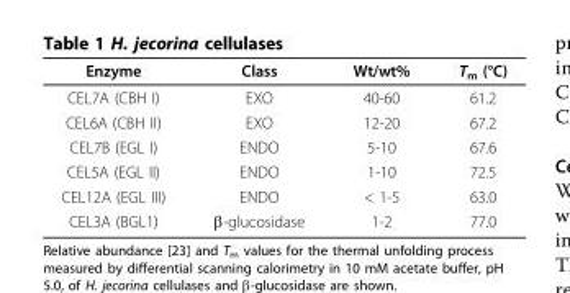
<table><thead><tr><td>Enzyme</td><td>Class</td><td>Wt/wt%</td><td>T<sub>m</sub> (°C)</td></tr></thead><tbody><tr><td>CEL7A (CBH I)</td><td>EXO</td><td>40-60</td><td>61.2</td></tr><tr><td>CEL6A (CBH II)</td><td>EXO</td><td>12-20</td><td>67.2</td></tr><tr><td>CEL7B (EGL I)</td><td>ENDO</td><td>5-10</td><td>67.6</td></tr><tr><td>CEL5A (EGL II)</td><td>ENDO</td><td>1-10</td><td>72.5</td></tr><tr><td>CEL12A (EGL III)</td><td>ENDO</td><td>&lt; 1-5</td><td>63.0</td></tr><tr><td>CEL3A (BGL1)</td><td>β-glucosidase</td><td>1-2</td><td>77.0</td></tr></tbody></table>